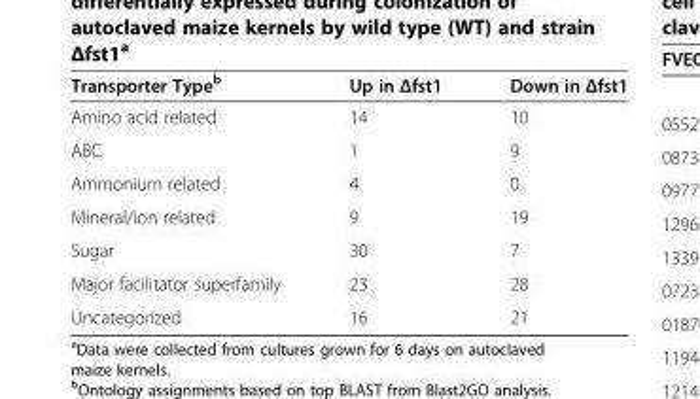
<table><thead><tr><td>Transporter Type<sup>b</sup></td><td>Up in Δfst1</td><td>Down in Δfst1</td></tr></thead><tbody><tr><td>Amino acid related</td><td>14</td><td>10</td></tr><tr><td>ABC</td><td>1</td><td>9</td></tr><tr><td>Ammonium related</td><td>4</td><td>0</td></tr><tr><td>Mineral/ion related</td><td>9</td><td>19</td></tr><tr><td>Sugar</td><td>30</td><td>7</td></tr><tr><td>Major facilitator superfamily</td><td>23</td><td>28</td></tr><tr><td>Uncategorized</td><td>16</td><td>21</td></tr></tbody></table>